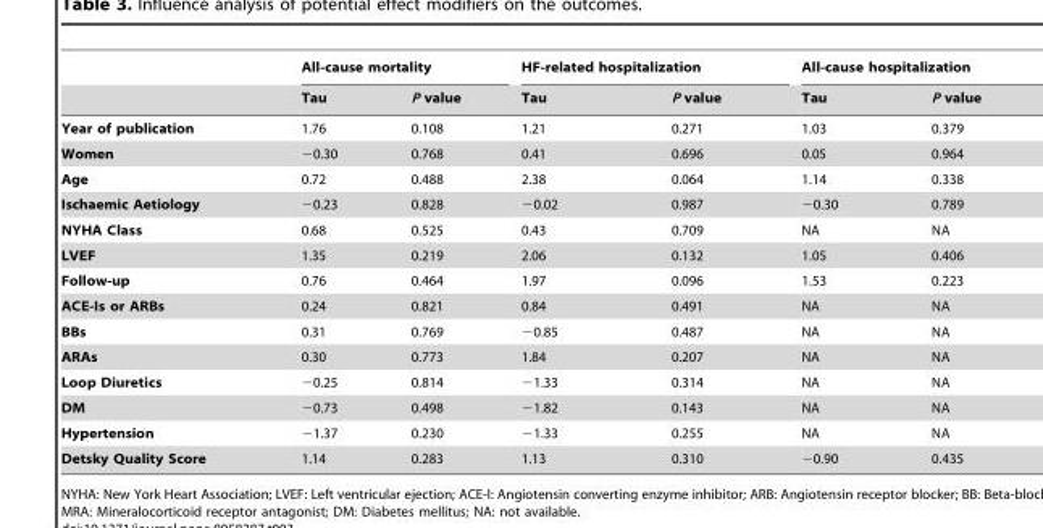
<table><thead><tr><td rowspan="2"></td><td colspan="2">All-cause mortality</td><td colspan="2">HF-related hospitalization</td><td colspan="2">All-cause hospitalization</td></tr><tr><td>Tau</td><td>P value</td><td>Tau</td><td>P value</td><td>Tau</td><td>P value</td></tr></thead><tbody><tr><td>Year of publication</td><td>1.76</td><td>0.108</td><td>1.21</td><td>0.271</td><td>1.03</td><td>0.379</td></tr><tr><td>Women</td><td>−0.30</td><td>0.768</td><td>0.41</td><td>0.696</td><td>0.05</td><td>0.964</td></tr><tr><td>Age</td><td>0.72</td><td>0.488</td><td>2.38</td><td>0.064</td><td>1.14</td><td>0.338</td></tr><tr><td>Ischaemic Aetiology</td><td>−0.23</td><td>0.828</td><td>−0.02</td><td>0.987</td><td>−0.30</td><td>0.789</td></tr><tr><td>NYHA Class</td><td>0.68</td><td>0.525</td><td>0.43</td><td>0.709</td><td>NA</td><td>NA</td></tr><tr><td>LVEF</td><td>1.35</td><td>0.219</td><td>2.06</td><td>0.132</td><td>1.05</td><td>0.406</td></tr><tr><td>Follow-up</td><td>0.76</td><td>0.464</td><td>1.97</td><td>0.096</td><td>1.53</td><td>0.223</td></tr><tr><td>ACE-Is or ARBs</td><td>0.24</td><td>0.821</td><td>0.84</td><td>0.491</td><td>NA</td><td>NA</td></tr><tr><td>BBs</td><td>0.31</td><td>0.769</td><td>−0.85</td><td>0.487</td><td>NA</td><td>NA</td></tr><tr><td>ARAs</td><td>0.30</td><td>0.773</td><td>1.84</td><td>0.207</td><td>NA</td><td>NA</td></tr><tr><td>Loop Diuretics</td><td>−0.25</td><td>0.814</td><td>−1.33</td><td>0.314</td><td>NA</td><td>NA</td></tr><tr><td>DM</td><td>−0.73</td><td>0.498</td><td>−1.82</td><td>0.143</td><td>NA</td><td>NA</td></tr><tr><td>Hypertension</td><td>−1.37</td><td>0.230</td><td>−1.33</td><td>0.255</td><td>NA</td><td>NA</td></tr><tr><td>Detsky Quality Score</td><td>1.14</td><td>0.283</td><td>1.13</td><td>0.310</td><td>−0.90</td><td>0.435</td></tr></tbody></table>